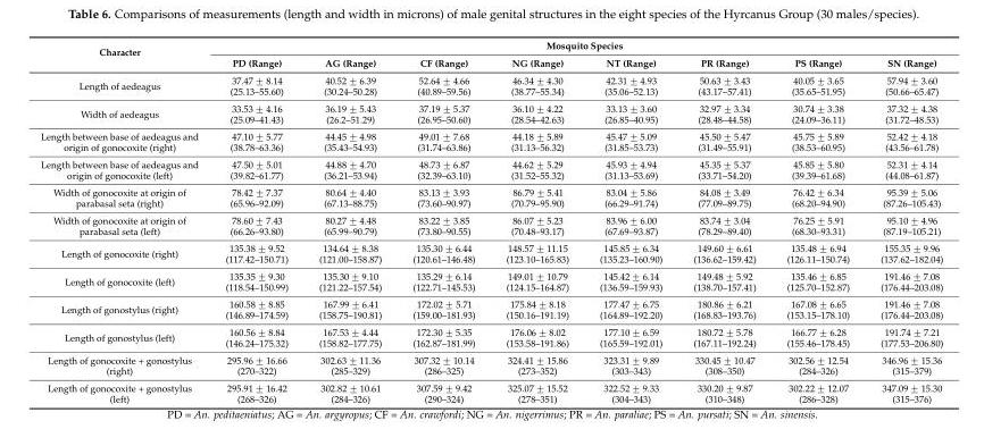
<table><thead><tr><td rowspan="2">Character</td><td colspan="8">Mosquito Species</td></tr><tr><td>PD (Range)</td><td>AG (Range)</td><td>CF (Range)</td><td>NG (Range)</td><td>NT (Range)</td><td>PR (Range)</td><td>PS (Range)</td><td>SN (Range)</td></tr></thead><tbody><tr><td>Length of aedeagus</td><td>37.47 ˘ 8.14 (25.13–55.60)</td><td>40.52 ˘ 6.39 (30.24–50.28)</td><td>52.64 ˘ 4.66 (40.89–59.56)</td><td>46.34 ˘ 4.30 (38.77–55.34)</td><td>42.31 ˘ 4.93 (35.06–52.13)</td><td>50.63 ˘ 3.43 (43.17–57.41)</td><td>40.05 ˘ 3.65 (35.65–51.95)</td><td>57.94 ˘ 3.60 (50.66–65.47)</td></tr><tr><td>Width of aedeagus</td><td>33.53 ˘ 4.16 (25.09–41.43)</td><td>36.19 ˘ 5.43 (26.2–51.29)</td><td>37.19 ˘ 5.37 (26.95–50.60)</td><td>36.10 ˘ 4.22 (28.54–42.63)</td><td>33.13 ˘ 3.60 (26.85–40.95)</td><td>32.97 ˘ 3.34 (28.48–44.58)</td><td>30.74 ˘ 3.38 (24.09–36.11)</td><td>37.32 ˘ 4.38 (31.72–48.53)</td></tr><tr><td>Length between base of aedeagus and origin of gonocoxite (right)</td><td>47.10 ˘ 5.77 (38.78–63.36)</td><td>44.45 ˘ 4.98 (35.43–54.93)</td><td>49.01 ˘ 7.68 (31.74–63.86)</td><td>44.18 ˘ 5.89 (31.13–56.32)</td><td>45.47 ˘ 5.09 (31.85–53.73)</td><td>45.50 ˘ 5.47 (31.49–55.91)</td><td>45.75 ˘ 5.89 (38.53–60.95)</td><td>52.42 ˘ 4.18 (43.56–61.78)</td></tr><tr><td>Length between base of aedeagus and origin of gonocoxite (left)</td><td>47.50 ˘ 5.01 (39.82–61.77)</td><td>44.88 ˘ 4.70 (36.21–53.94)</td><td>48.73 ˘ 6.87 (32.39–63.10)</td><td>44.62 ˘ 5.29 (31.52–55.32)</td><td>45.93 ˘ 4.94 (31.13–53.69)</td><td>45.35 ˘ 5.37 (33.71–54.20)</td><td>45.85 ˘ 5.80 (39.39–61.68)</td><td>52.31 ˘ 4.14 (44.08–61.87)</td></tr><tr><td>Width of gonocoxite at origin of parabasal seta (right)</td><td>78.42 ˘ 7.37 (65.96–92.09)</td><td>80.64 ˘ 4.40 (67.13–88.75)</td><td>83.13 ˘ 3.93 (73.60–90.97)</td><td>86.79 ˘ 5.41 (70.79–95.90)</td><td>83.04 ˘ 5.86 (66.29–91.74)</td><td>84.08 ˘ 3.49 (77.09–89.75)</td><td>76.42 ˘ 6.34 (68.20–94.90)</td><td>95.39 ˘ 5.06 (87.26–105.43)</td></tr><tr><td>Width of gonocoxite at origin of parabasal seta (left)</td><td>78.60 ˘ 7.43 (66.26–93.80)</td><td>80.27 ˘ 4.48 (65.99–90.79)</td><td>83.22 ˘ 3.85 (73.80–90.55)</td><td>86.07 ˘ 5.23 (70.48–93.17)</td><td>83.96 ˘ 6.00 (67.69–93.87)</td><td>83.74 ˘ 3.04 (78.29–89.40)</td><td>76.25 ˘ 5.91 (68.30–93.31)</td><td>95.10 ˘ 4.96 (87.19–105.21)</td></tr><tr><td>Length of gonocoxite (right)</td><td>135.38 ˘ 9.52 (117.42–150.71)</td><td>134.64 ˘ 8.38 (121.00–158.87)</td><td>135.30 ˘ 6.44 (120.61–146.48)</td><td>148.57 ˘ 11.15 (123.10–165.83)</td><td>145.85 ˘ 6.34 (135.23–160.90)</td><td>149.60 ˘ 6.61 (136.62–159.42)</td><td>135.48 ˘ 6.94 (126.11–150.74)</td><td>155.35 ˘ 9.96 (137.62–182.04)</td></tr><tr><td>Length of gonocoxite (left)</td><td>135.35 ˘ 9.30 (118.54–150.99)</td><td>135.30 ˘ 9.10 (121.22–157.54)</td><td>135.29 ˘ 6.14 (122.71–145.53)</td><td>149.01 ˘ 10.79 (124.15–164.87)</td><td>145.42 ˘ 6.14 (136.59–159.93)</td><td>149.48 ˘ 5.92 (138.70–157.41)</td><td>135.46 ˘ 6.85 (125.70–152.87)</td><td>191.46 ˘ 7.08 (176.44–203.08)</td></tr><tr><td>Length of gonostylus (right)</td><td>160.58 ˘ 8.85 (146.89–174.59)</td><td>167.99 ˘ 6.41 (158.75–190.81)</td><td>172.02 ˘ 5.71 (159.00–181.93)</td><td>175.84 ˘ 8.18 (150.16–191.19)</td><td>177.47 ˘ 6.75 (164.89–192.20)</td><td>180.86 ˘ 6.21 (168.83–193.76)</td><td>167.08 ˘ 6.65 (153.15–178.10)</td><td>191.46 ˘ 7.08 (176.44–203.08)</td></tr><tr><td>Length of gonostylus (left)</td><td>160.56 ˘ 8.84 (146.24–175.32)</td><td>167.53 ˘ 4.44 (158.82–177.75)</td><td>172.30 ˘ 5.35 (162.87–181.99)</td><td>176.06 ˘ 8.02 (153.58–191.86)</td><td>177.10 ˘ 6.59 (165.59–192.01)</td><td>180.72 ˘ 5.78 (167.11–192.24)</td><td>166.77 ˘ 6.28 (155.46–178.45)</td><td>191.74 ˘ 7.21 (177.53–206.80)</td></tr><tr><td>Length of gonocoxite + gonostylus (right)</td><td>295.96 ˘ 16.66 (270–322)</td><td>302.63 ˘ 11.36 (285–329)</td><td>307.32 ˘ 10.14 (286–325)</td><td>324.41 ˘ 15.86 (273–352)</td><td>323.31 ˘ 9.89 (303–343)</td><td>330.45 ˘ 10.47 (308–350)</td><td>302.56 ˘ 12.54 (284–326)</td><td>346.96 ˘ 15.36 (315–379)</td></tr><tr><td>Length of gonocoxite + gonostylus (left)</td><td>295.91 ˘ 16.42 (268–326)</td><td>302.82 ˘ 10.61 (284–326)</td><td>307.59 ˘ 9.42 (290–324)</td><td>325.07 ˘ 15.52 (278–351)</td><td>322.52 ˘ 9.33 (304–343)</td><td>330.20 ˘ 9.87 (310–348)</td><td>302.22 ˘ 12.07 (286–328)</td><td>347.09 ˘ 15.30 (315–376)</td></tr></tbody></table>